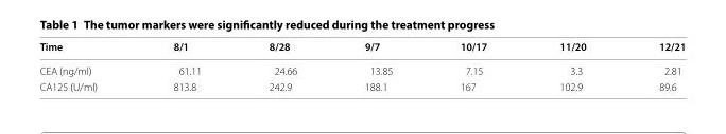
<table><thead><tr><td>Time</td><td>8/1</td><td>8/28</td><td>9/7</td><td>10/17</td><td>11/20</td><td>12/21</td></tr></thead><tbody><tr><td>CEA (ng/ml)</td><td>61.11</td><td>24.66</td><td>13.85</td><td>7.15</td><td>3.3</td><td>2.81</td></tr><tr><td>CA125 (U/ml)</td><td>813.8</td><td>242.9</td><td>188.1</td><td>167</td><td>102.9</td><td>89.6</td></tr></tbody></table>